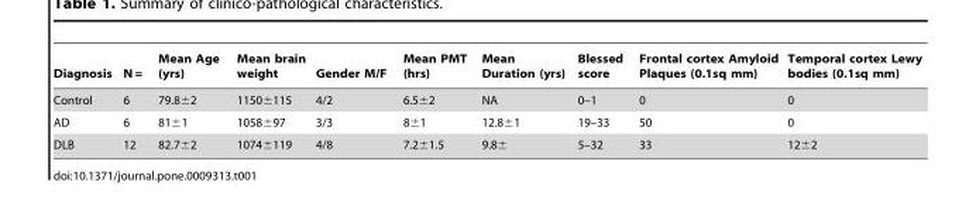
<table><thead><tr><td>Diagnosis</td><td>N =</td><td>Mean Age (yrs)</td><td>Mean brain weight</td><td>Gender M/F</td><td>Mean PMT (hrs)</td><td>Mean Duration (yrs)</td><td>Blessed score</td><td>Frontal cortex Amyloid Plaques (0.1sq mm)</td><td>Temporal cortex Lewy bodies (0.1sq mm)</td></tr></thead><tbody><tr><td>Control</td><td>6</td><td>79.8±2</td><td>1150±115</td><td>4/2</td><td>6.5±2</td><td>NA</td><td>0–1</td><td>0</td><td>0</td></tr><tr><td>AD</td><td>6</td><td>81±1</td><td>1058±97</td><td>3/3</td><td>8±1</td><td>12.8±1</td><td>19–33</td><td>50</td><td>0</td></tr><tr><td>DLB</td><td>12</td><td>82.7±2</td><td>1074±119</td><td>4/8</td><td>7.2±1.5</td><td>9.8±</td><td>5–32</td><td>33</td><td>12±2</td></tr></tbody></table>